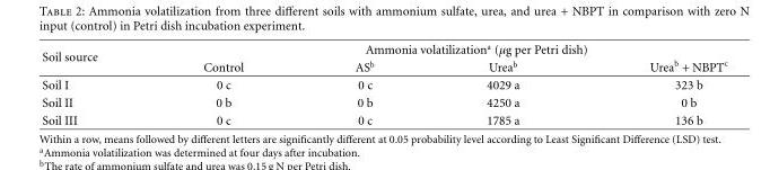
<table><thead><tr><td rowspan="2">Soil source</td><td colspan="4">Ammonia volatilization<sup>a</sup> (µg per Petri dish)</td></tr><tr><td>Control</td><td>AS<sup>b</sup></td><td>Urea<sup>b</sup></td><td>Urea<sup>b</sup> + NBPT<sup>c</sup></td></tr></thead><tbody><tr><td>Soil I</td><td>0 c</td><td>0 c</td><td>4029 a</td><td>323 b</td></tr><tr><td>Soil II</td><td>0 b</td><td>0 b</td><td>4250 a</td><td>0 b</td></tr><tr><td>Soil III</td><td>0 c</td><td>0 c</td><td>1785 a</td><td>136 b</td></tr></tbody></table>